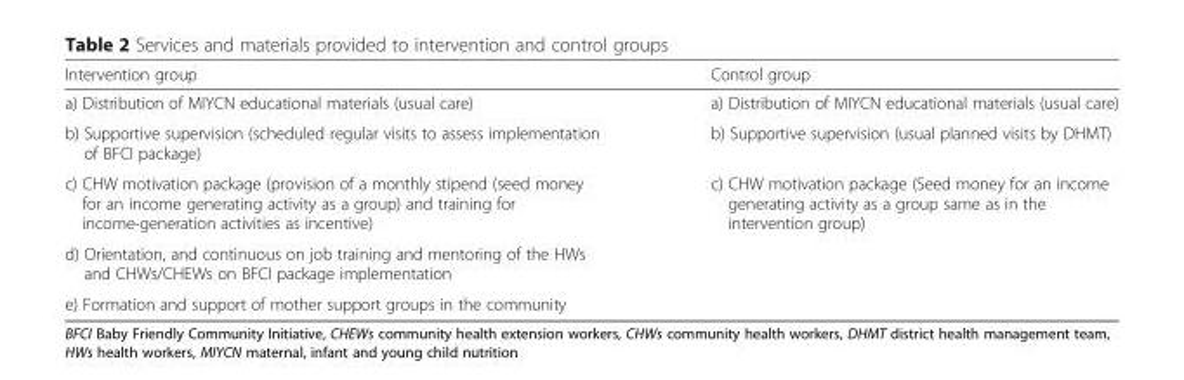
<table><thead><tr><td>Intervention group</td><td>Control group</td></tr></thead><tbody><tr><td>a) Distribution of MIYCN educational materials (usual care)</td><td>a) Distribution of MIYCN educational materials (usual care)</td></tr><tr><td>b) Supportive supervision (scheduled regular visits to assess implementation of BFCI package)</td><td>b) Supportive supervision (usual planned visits by DHMT)</td></tr><tr><td>c) CHW motivation package (provision of a monthly stipend (seed money for an income generating activity as a group) and training for income-generation activities as incentive)</td><td rowspan="3">c) CHW motivation package (Seed money for an income generating activity as a group same as in the intervention group)</td></tr><tr><td>d) Orientation, and continuous on job training and mentoring of the HWs and CHWs/CHEWs on BFCI package implementation</td></tr><tr><td>e) Formation and support of mother support groups in the community</td></tr></tbody></table>